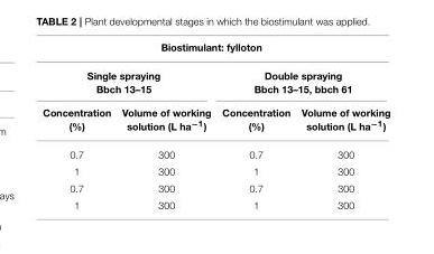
<table><thead><tr><td colspan="4">Biostimulant: fylloton</td></tr><tr><td colspan="2">Single spraying Bbch 13–15</td><td colspan="2">Double spraying Bbch 13–15, bbch 61</td></tr><tr><td>Concentration (%)</td><td>Volume of working solution (L ha<sup>−1</sup>)</td><td>Concentration (%)</td><td>Volume of working solution (L ha<sup>−1</sup>)</td></tr></thead><tbody><tr><td>0.7</td><td>300</td><td>0.7</td><td>300</td></tr><tr><td>1</td><td>300</td><td>1</td><td>300</td></tr><tr><td>0.7</td><td>300</td><td>0.7</td><td>300</td></tr><tr><td>1</td><td>300</td><td>1</td><td>300</td></tr></tbody></table>